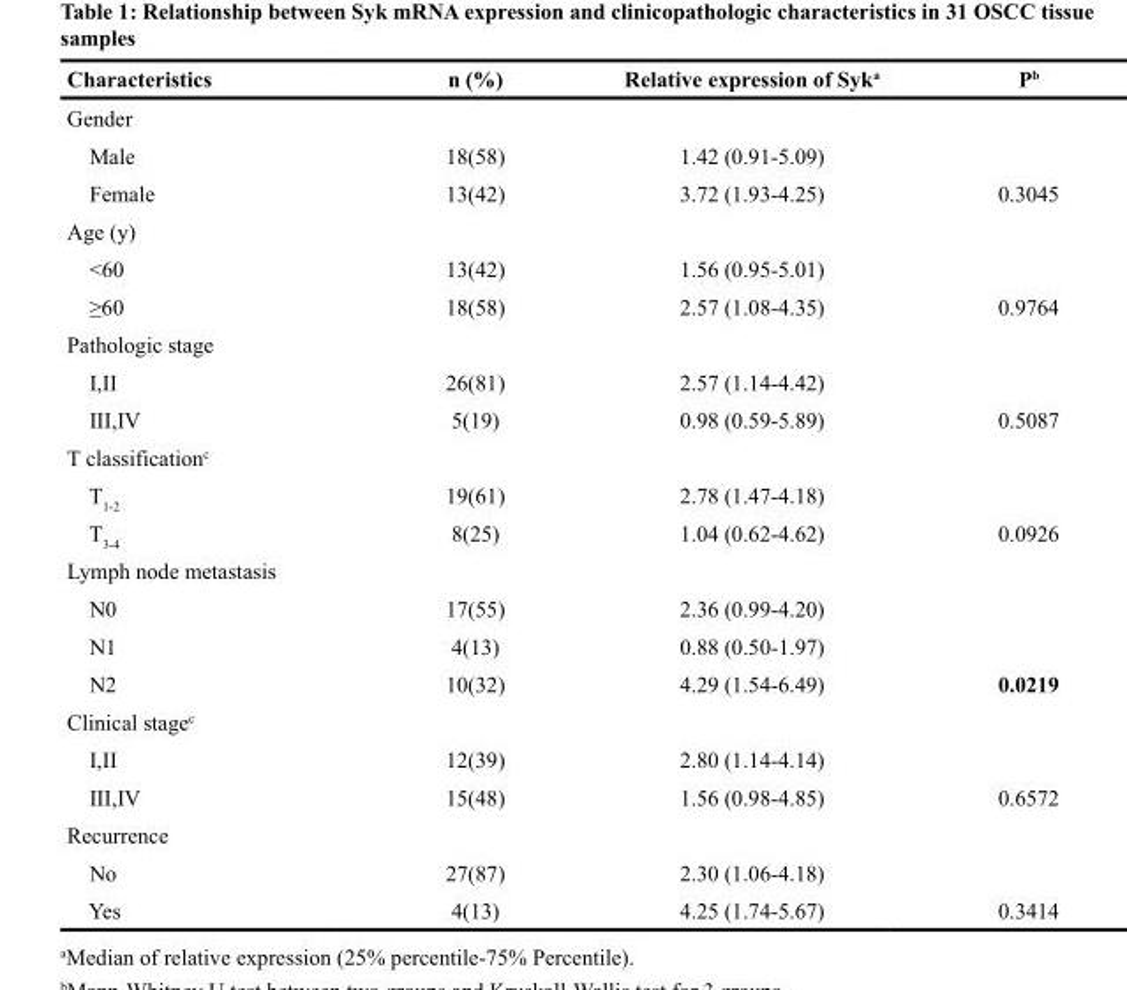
<table><thead><tr><td>Characteristics</td><td>n (%)</td><td>Relative expression of Syk<sup>a</sup></td><td>P<sup>b</sup></td></tr></thead><tbody><tr><td colspan="4">Gender</td></tr><tr><td>Male</td><td>18(58)</td><td>1.42 (0.91-5.09)</td><td></td></tr><tr><td>Female</td><td>13(42)</td><td>3.72 (1.93-4.25)</td><td>0.3045</td></tr><tr><td colspan="4">Age (y)</td></tr><tr><td>&lt;60</td><td>13(42)</td><td>1.56 (0.95-5.01)</td><td></td></tr><tr><td>≥60</td><td>18(58)</td><td>2.57 (1.08-4.35)</td><td>0.9764</td></tr><tr><td colspan="4">Pathologic stage</td></tr><tr><td>I,II</td><td>26(81)</td><td>2.57 (1.14-4.42)</td><td></td></tr><tr><td>III,IV</td><td>5(19)</td><td>0.98 (0.59-5.89)</td><td>0.5087</td></tr><tr><td colspan="4">T classification<sup>c</sup></td></tr><tr><td>T<sub>1-2</sub></td><td>19(61)</td><td>2.78 (1.47-4.18)</td><td></td></tr><tr><td>T<sub>3-4</sub></td><td>8(25)</td><td>1.04 (0.62-4.62)</td><td>0.0926</td></tr><tr><td colspan="4">Lymph node metastasis</td></tr><tr><td>N0</td><td>17(55)</td><td>2.36 (0.99-4.20)</td><td></td></tr><tr><td>N1</td><td>4(13)</td><td>0.88 (0.50-1.97)</td><td></td></tr><tr><td>N2</td><td>10(32)</td><td>4.29 (1.54-6.49)</td><td>0.0219</td></tr><tr><td colspan="4">Clinical stage<sup>c</sup></td></tr><tr><td>I,II</td><td>12(39)</td><td>2.80 (1.14-4.14)</td><td></td></tr><tr><td>III,IV</td><td>15(48)</td><td>1.56 (0.98-4.85)</td><td>0.6572</td></tr><tr><td colspan="4">Recurrence</td></tr><tr><td>No</td><td>27(87)</td><td>2.30 (1.06-4.18)</td><td></td></tr><tr><td>Yes</td><td>4(13)</td><td>4.25 (1.74-5.67)</td><td>0.3414</td></tr></tbody></table>